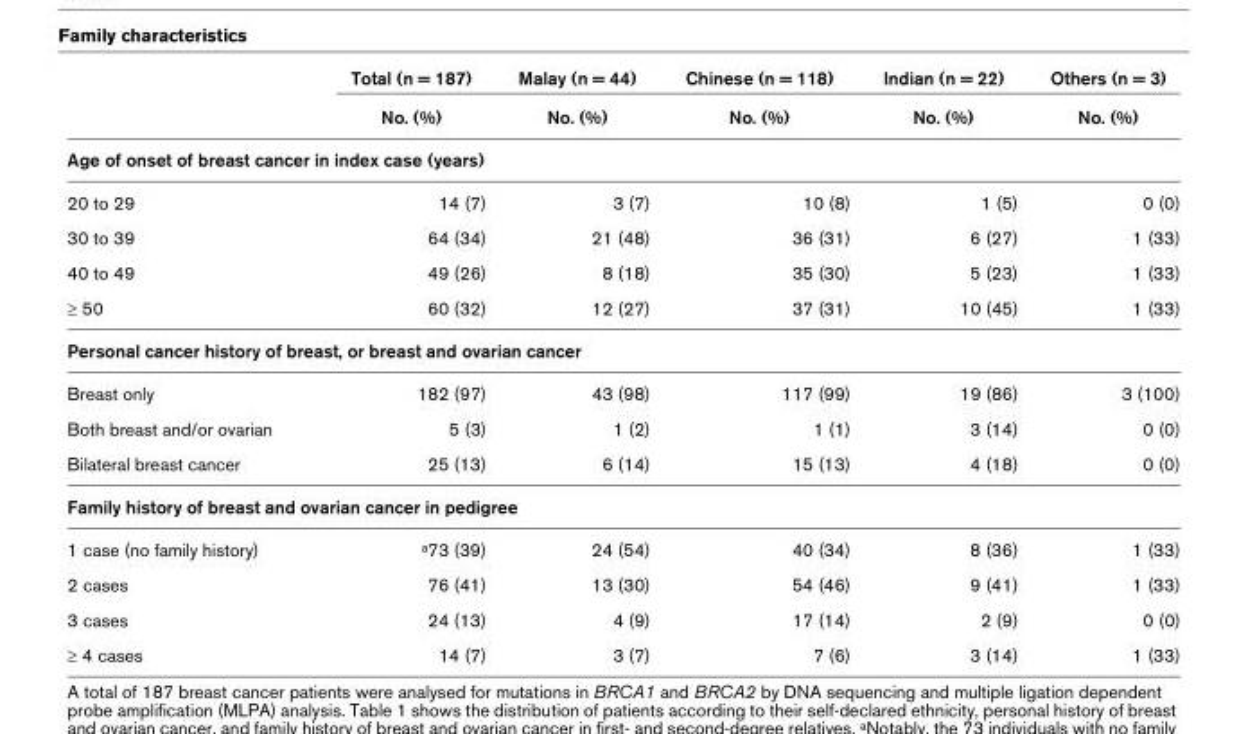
<table><thead><tr><td rowspan="2"></td><td rowspan="2">Total (n = 187) No. (%)</td><td rowspan="2">Malay (n = 44) No. (%)</td><td rowspan="2">Chinese (n = 118) No. (%)</td><td rowspan="2">Indian (n = 22) No. (%)</td><td rowspan="2">Others (n = 3) No. (%)</td></tr><tr></tr></thead><tbody><tr><td colspan="6">Age of onset of breast cancer in index case (years)</td></tr><tr><td>20 to 29</td><td>14 (7)</td><td>3 (7)</td><td>10 (8)</td><td>1 (5)</td><td>0 (0)</td></tr><tr><td>30 to 39</td><td>64 (34)</td><td>21 (48)</td><td>36 (31)</td><td>6 (27)</td><td>1 (33)</td></tr><tr><td>40 to 49</td><td>49 (26)</td><td>8 (18)</td><td>35 (30)</td><td>5 (23)</td><td>1 (33)</td></tr><tr><td>≥ 50</td><td>60 (32)</td><td>12 (27)</td><td>37 (31)</td><td>10 (45)</td><td>1 (33)</td></tr><tr><td colspan="6">Personal cancer history of breast, or breast and ovarian cancer</td></tr><tr><td>Breast only</td><td>182 (97)</td><td>43 (98)</td><td>117 (99)</td><td>19 (86)</td><td>3 (100)</td></tr><tr><td>Both breast and/or ovarian</td><td>5 (3)</td><td>1 (2)</td><td>1 (1)</td><td>3 (14)</td><td>0 (0)</td></tr><tr><td>Bilateral breast cancer</td><td>25 (13)</td><td>6 (14)</td><td>15 (13)</td><td>4 (18)</td><td>0 (0)</td></tr><tr><td colspan="6">Family history of breast and ovarian cancer in pedigree</td></tr><tr><td>1 case (no family history)</td><td><sup>a</sup>73 (39)</td><td>24 (54)</td><td>40 (34)</td><td>8 (36)</td><td>1 (33)</td></tr><tr><td>2 cases</td><td>76 (41)</td><td>13 (30)</td><td>54 (46)</td><td>9 (41)</td><td>1 (33)</td></tr><tr><td>3 cases</td><td>24 (13)</td><td>4 (9)</td><td>17 (14)</td><td>2 (9)</td><td>0 (0)</td></tr><tr><td>≥ 4 cases</td><td>14 (7)</td><td>3 (7)</td><td>7 (6)</td><td>3 (14)</td><td>1 (33)</td></tr></tbody></table>